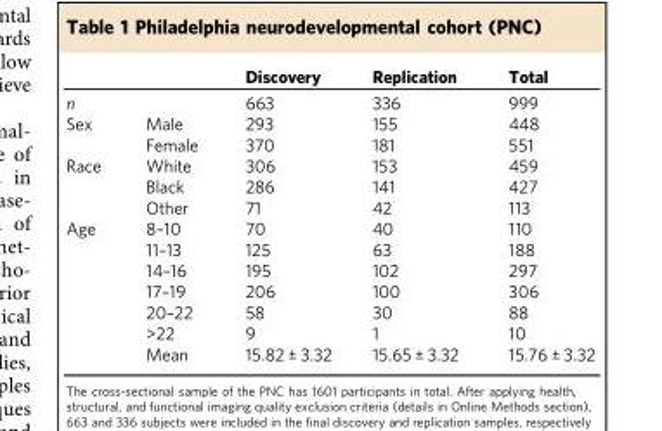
<table><thead><tr><td></td><td></td><td>Discovery</td><td>Replication</td><td>Total</td></tr></thead><tbody><tr><td>n</td><td></td><td>663</td><td>336</td><td>999</td></tr><tr><td rowspan="2">Sex</td><td>Male</td><td>293</td><td>155</td><td>448</td></tr><tr><td>Female</td><td>370</td><td>181</td><td>551</td></tr><tr><td rowspan="3">Race</td><td>White</td><td>306</td><td>153</td><td>459</td></tr><tr><td>Black</td><td>286</td><td>141</td><td>427</td></tr><tr><td>Other</td><td>71</td><td>42</td><td>113</td></tr><tr><td rowspan="7">Age</td><td>8–10</td><td>70</td><td>40</td><td>110</td></tr><tr><td>11–13</td><td>125</td><td>63</td><td>188</td></tr><tr><td>14–16</td><td>195</td><td>102</td><td>297</td></tr><tr><td>17–19</td><td>206</td><td>100</td><td>306</td></tr><tr><td>20–22</td><td>58</td><td>30</td><td>88</td></tr><tr><td>&gt;22</td><td>9</td><td>1</td><td>10</td></tr><tr><td>Mean</td><td>15.82 ± 3.32</td><td>15.65 ± 3.32</td><td>15.76 ± 3.32</td></tr></tbody></table>